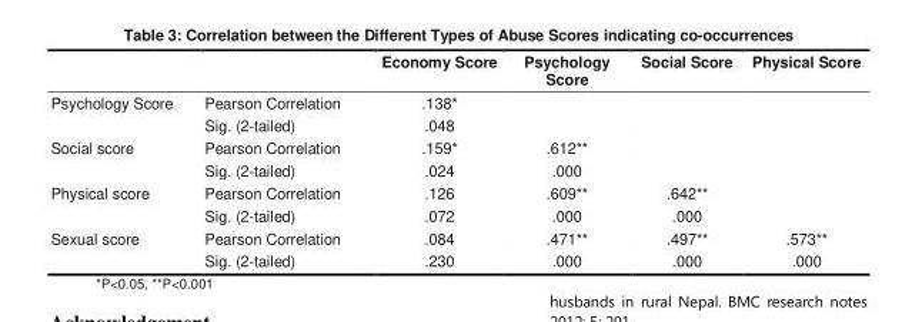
<table><thead><tr><td></td><td></td><td>Economy Score</td><td>Psychology Score</td><td>Social Score</td><td>Physical Score</td></tr></thead><tbody><tr><td rowspan="2">Psychology Score</td><td>Pearson Correlation</td><td>.138*</td><td></td><td></td><td></td></tr><tr><td>Sig. (2-tailed)</td><td>.048</td><td></td><td></td><td></td></tr><tr><td rowspan="2">Social score</td><td>Pearson Correlation</td><td>.159*</td><td>.612**</td><td></td><td></td></tr><tr><td>Sig. (2-tailed)</td><td>.024</td><td>.000</td><td></td><td></td></tr><tr><td rowspan="2">Physical score</td><td>Pearson Correlation</td><td>.126</td><td>.609**</td><td>.642**</td><td></td></tr><tr><td>Sig. (2-tailed)</td><td>.072</td><td>.000</td><td>.000</td><td></td></tr><tr><td rowspan="2">Sexual score</td><td>Pearson Correlation</td><td>.084</td><td>.471**</td><td>.497**</td><td>.573**</td></tr><tr><td>Sig. (2-tailed)</td><td>.230</td><td>.000</td><td>.000</td><td>.000</td></tr></tbody></table>